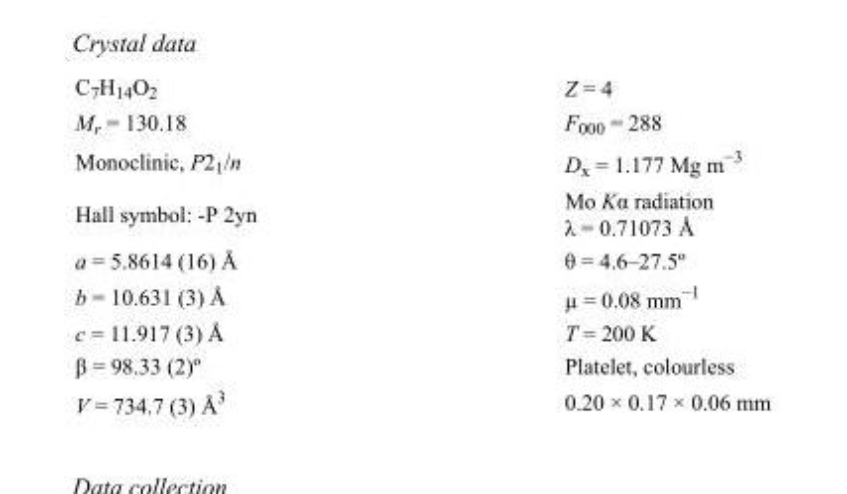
<table><tbody><tr><td>C<sub>7</sub>H<sub>14</sub>O<sub>2</sub></td><td>Z = 4</td></tr><tr><td>M<sub>r</sub> = 130.18</td><td>F000 = 288</td></tr><tr><td>Monoclinic, P2<sub>1</sub>/n</td><td>D<sub>x</sub> = 1.177 Mg m<sup>−3</sup></td></tr><tr><td>Hall symbol: -P 2yn</td><td>Mo Kα radiation λ = 0.71073 Å</td></tr><tr><td>a = 5.8614 (16) Å</td><td>θ = 4.6–27.5º</td></tr><tr><td>b = 10.631 (3) Å</td><td>µ = 0.08 mm<sup>−1</sup></td></tr><tr><td>c = 11.917 (3) Å</td><td>T = 200 K</td></tr><tr><td>β = 98.33 (2)º</td><td>Platelet, colourless</td></tr><tr><td>V = 734.7 (3) Å<sup>3</sup></td><td>0.20 × 0.17 × 0.06 mm</td></tr></tbody></table>